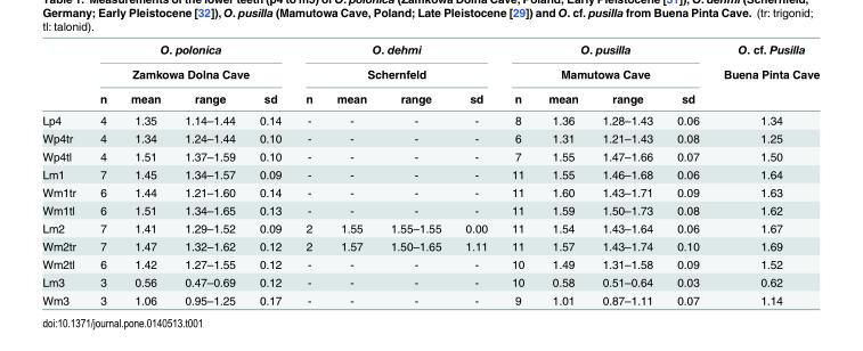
<table><thead><tr><td rowspan="3"></td><td rowspan="2" colspan="4">O. polonica Zamkowa Dolna Cave</td><td rowspan="2" colspan="4">O. dehmi Schernfeld</td><td rowspan="2" colspan="4">O. pusilla Mamutowa Cave</td><td rowspan="3">O. cf. Pusilla Buena Pinta Cave</td></tr><tr></tr><tr><td>n</td><td>mean</td><td>range</td><td>sd</td><td>n</td><td>mean</td><td>range</td><td>sd</td><td>n</td><td>mean</td><td>range</td><td>sd</td></tr></thead><tbody><tr><td>Lp4</td><td>4</td><td>1.35</td><td>1.14–1.44</td><td>0.14</td><td>-</td><td>-</td><td>-</td><td>-</td><td>8</td><td>1.36</td><td>1.28–1.43</td><td>0.06</td><td>1.34</td></tr><tr><td>Wp4tr</td><td>4</td><td>1.34</td><td>1.24–1.44</td><td>0.10</td><td>-</td><td>-</td><td>-</td><td>-</td><td>6</td><td>1.31</td><td>1.21–1.43</td><td>0.08</td><td>1.25</td></tr><tr><td>Wp4tl</td><td>4</td><td>1.51</td><td>1.37–1.59</td><td>0.10</td><td>-</td><td>-</td><td>-</td><td>-</td><td>7</td><td>1.55</td><td>1.47–1.66</td><td>0.07</td><td>1.50</td></tr><tr><td>Lm1</td><td>7</td><td>1.45</td><td>1.34–1.57</td><td>0.09</td><td>-</td><td>-</td><td>-</td><td>-</td><td>11</td><td>1.55</td><td>1.46–1.68</td><td>0.06</td><td>1.64</td></tr><tr><td>Wm1tr</td><td>6</td><td>1.44</td><td>1.21–1.60</td><td>0.14</td><td>-</td><td>-</td><td>-</td><td>-</td><td>11</td><td>1.60</td><td>1.43–1.71</td><td>0.09</td><td>1.63</td></tr><tr><td>Wm1tl</td><td>6</td><td>1.51</td><td>1.34–1.65</td><td>0.13</td><td>-</td><td>-</td><td>-</td><td>-</td><td>11</td><td>1.59</td><td>1.50–1.73</td><td>0.08</td><td>1.62</td></tr><tr><td>Lm2</td><td>7</td><td>1.41</td><td>1.29–1.52</td><td>0.09</td><td>2</td><td>1.55</td><td>1.55–1.55</td><td>0.00</td><td>11</td><td>1.54</td><td>1.43–1.64</td><td>0.06</td><td>1.67</td></tr><tr><td>Wm2tr</td><td>7</td><td>1.47</td><td>1.32–1.62</td><td>0.12</td><td>2</td><td>1.57</td><td>1.50–1.65</td><td>1.11</td><td>11</td><td>1.57</td><td>1.43–1.74</td><td>0.10</td><td>1.69</td></tr><tr><td>Wm2tl</td><td>6</td><td>1.42</td><td>1.27–1.55</td><td>0.12</td><td>-</td><td>-</td><td>-</td><td>-</td><td>10</td><td>1.49</td><td>1.31–1.58</td><td>0.09</td><td>1.52</td></tr><tr><td>Lm3</td><td>3</td><td>0.56</td><td>0.47–0.69</td><td>0.12</td><td>-</td><td>-</td><td>-</td><td>-</td><td>10</td><td>0.58</td><td>0.51–0.64</td><td>0.03</td><td>0.62</td></tr><tr><td>Wm3</td><td>3</td><td>1.06</td><td>0.95–1.25</td><td>0.17</td><td>-</td><td>-</td><td>-</td><td>-</td><td>9</td><td>1.01</td><td>0.87–1.11</td><td>0.07</td><td>1.14</td></tr></tbody></table>